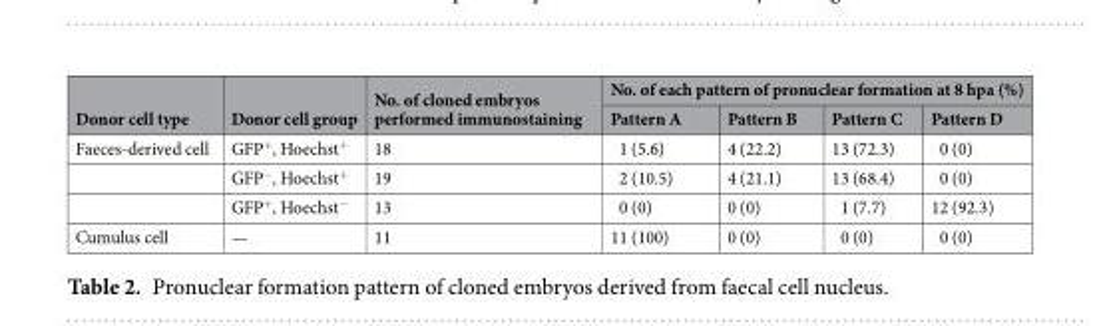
<table><thead><tr><td rowspan="2">Donor cell type</td><td rowspan="2">Donor cell group</td><td rowspan="2">No. of cloned embryos performed immunostaining</td><td colspan="4">No. of each pattern of pronuclear formation at 8 hpa (%)</td></tr><tr><td>Pattern A</td><td>Pattern B</td><td>Pattern C</td><td>Pattern D</td></tr></thead><tbody><tr><td rowspan="3">Faeces-derived cell</td><td>GFP<sup>+</sup>, Hoechst<sup>+</sup></td><td>18</td><td>1 (5.6)</td><td>4 (22.2)</td><td>13 (72.3)</td><td>0 (0)</td></tr><tr><td>GFP<sup>−</sup>, Hoechst<sup>+</sup></td><td>19</td><td>2 (10.5)</td><td>4 (21.1)</td><td>13 (68.4)</td><td>0 (0)</td></tr><tr><td>GFP<sup>+</sup>, Hoechst<sup>−</sup></td><td>13</td><td>0 (0)</td><td>0 (0)</td><td>1 (7.7)</td><td>12 (92.3)</td></tr><tr><td>Cumulus cell</td><td>—</td><td>11</td><td>11 (100)</td><td>0 (0)</td><td>0 (0)</td><td>0 (0)</td></tr></tbody></table>